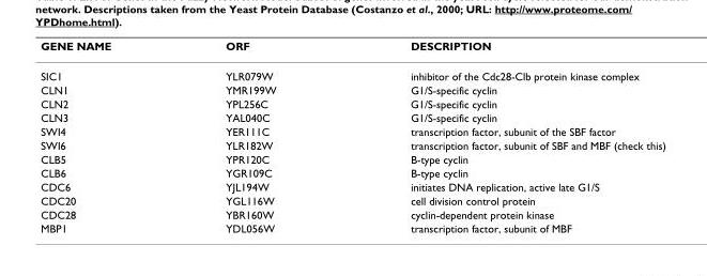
<table><thead><tr><td>GENE NAME</td><td>ORF</td><td>DESCRIPTION</td></tr></thead><tbody><tr><td>SIC1</td><td>YLR079W</td><td>inhibitor of the Cdc28-Clb protein kinase complex</td></tr><tr><td>CLN1</td><td>YMR199W</td><td>G1/S-specific cyclin</td></tr><tr><td>CLN2</td><td>YPL256C</td><td>G1/S-specific cyclin</td></tr><tr><td>CLN3</td><td>YAL040C</td><td>G1/S-specific cyclin</td></tr><tr><td>SWI4</td><td>YER111C</td><td>transcription factor, subunit of the SBF factor</td></tr><tr><td>SWI6</td><td>YLR182W</td><td>transcription factor, subunit of SBF and MBF (check this)</td></tr><tr><td>CLB5</td><td>YPR120C</td><td>B-type cyclin</td></tr><tr><td>CLB6</td><td>YGR109C</td><td>B-type cyclin</td></tr><tr><td>CDC6</td><td>YJL194W</td><td>initiates DNA replication, active late G1/S</td></tr><tr><td>CDC20</td><td>YGL116W</td><td>cell division control protein</td></tr><tr><td>CDC28</td><td>YBR160W</td><td>cyclin-dependent protein kinase</td></tr><tr><td>MBP1</td><td>YDL056W</td><td>transcription factor, subunit of MBF</td></tr></tbody></table>